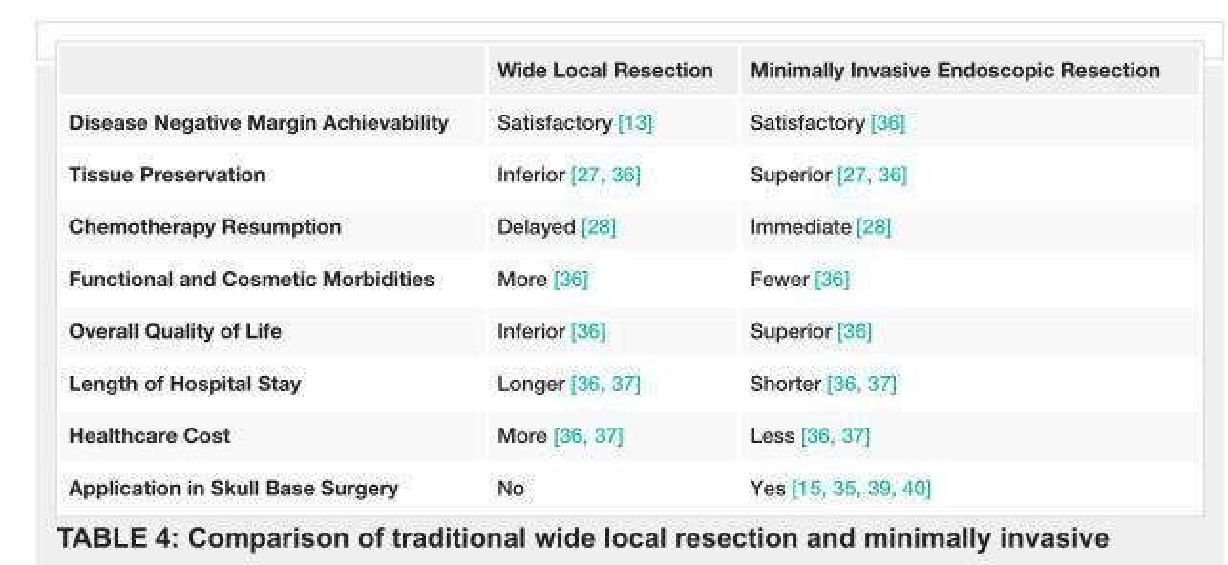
<table><thead><tr><td></td><td>Wide Local Resection</td><td>Minimally Invasive Endoscopic Resection</td></tr></thead><tbody><tr><td>Disease Negative Margin Achievability</td><td>Satisfactory [13]</td><td>Satisfactory [36]</td></tr><tr><td>Tissue Preservation</td><td>Inferior [27, 36]</td><td>Superior [27, 36]</td></tr><tr><td>Chemotherapy Resumption</td><td>Delayed [28]</td><td>Immediate [28]</td></tr><tr><td>Functional and Cosmetic Morbidities</td><td>More [36]</td><td>Fewer [36]</td></tr><tr><td>Overall Quality of Life</td><td>Inferior [36]</td><td>Superior [36]</td></tr><tr><td>Length of Hospital Stay</td><td>Longer [36, 37]</td><td>Shorter [36, 37]</td></tr><tr><td>Healthcare Cost</td><td>More [36, 37]</td><td>Less [36, 37]</td></tr><tr><td>Application in Skull Base Surgery</td><td>No</td><td>Yes [15, 35, 39, 40]</td></tr></tbody></table>